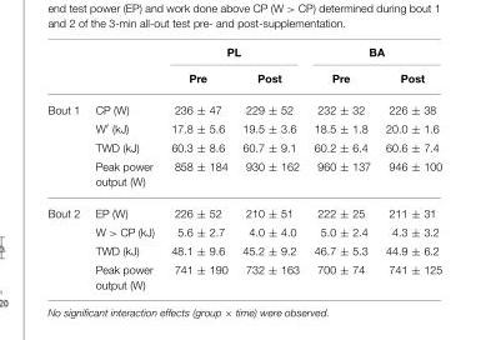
<table><thead><tr><td rowspan="2"></td><td rowspan="2"></td><td colspan="2">PL</td><td colspan="2">BA</td></tr><tr><td>Pre</td><td>Post</td><td>Pre</td><td>Post</td></tr></thead><tbody><tr><td rowspan="4">Bout 1</td><td>CP (W)</td><td>236 ± 47</td><td>229 ± 52</td><td>232 ± 32</td><td>226 ± 38</td></tr><tr><td>W′ (kJ)</td><td>17.8 ± 5.6</td><td>19.5 ± 3.6</td><td>18.5 ± 1.8</td><td>20.0 ± 1.6</td></tr><tr><td>TWD (kJ)</td><td>60.3 ± 8.6</td><td>60.7 ± 9.1</td><td>60.2 ± 6.4</td><td>60.6 ± 7.4</td></tr><tr><td>Peak power output (W)</td><td>858 ± 184</td><td>930 ± 162</td><td>960 ± 137</td><td>946 ± 100</td></tr><tr><td rowspan="4">Bout 2</td><td>EP (W)</td><td>226 ± 52</td><td>210 ± 51</td><td>222 ± 25</td><td>211 ± 31</td></tr><tr><td>W &gt; CP (kJ)</td><td>5.6 ± 2.7</td><td>4.0 ± 4.0</td><td>5.0 ± 2.4</td><td>4.3 ± 3.2</td></tr><tr><td>TWD (kJ)</td><td>48.1 ± 9.6</td><td>45.2 ± 9.2</td><td>46.7 ± 5.3</td><td>44.9 ± 6.2</td></tr><tr><td>Peak power output (W)</td><td>741 ± 190</td><td>732 ± 163</td><td>700 ± 74</td><td>741 ± 125</td></tr></tbody></table>